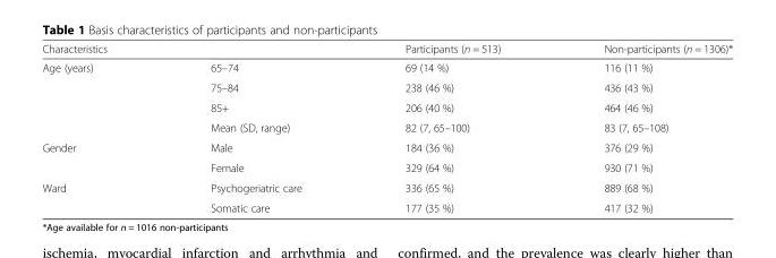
<table><thead><tr><td>Characteristics</td><td></td><td>Participants (n = 513)</td><td>Non-participants (n = 1306)*</td></tr></thead><tbody><tr><td rowspan="4">Age (years)</td><td>65–74</td><td>69 (14 %)</td><td>116 (11 %)</td></tr><tr><td>75–84</td><td>238 (46 %)</td><td>436 (43 %)</td></tr><tr><td>85+</td><td>206 (40 %)</td><td>464 (46 %)</td></tr><tr><td>Mean (SD, range)</td><td>82 (7, 65–100)</td><td>83 (7, 65–108)</td></tr><tr><td rowspan="2">Gender</td><td>Male</td><td>184 (36 %)</td><td>376 (29 %)</td></tr><tr><td>Female</td><td>329 (64 %)</td><td>930 (71 %)</td></tr><tr><td rowspan="2">Ward</td><td>Psychogeriatric care</td><td>336 (65 %)</td><td>889 (68 %)</td></tr><tr><td>Somatic care</td><td>177 (35 %)</td><td>417 (32 %)</td></tr></tbody></table>